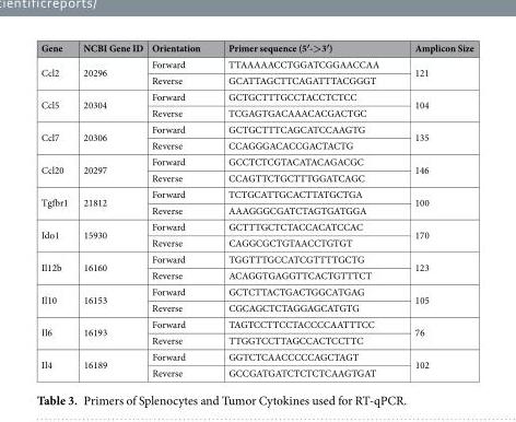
<table><thead><tr><td>Gene</td><td>NCBI Gene ID</td><td>Orientation</td><td>Primer sequence (5′-&gt;3′)</td><td>Amplicon Size</td></tr></thead><tbody><tr><td rowspan="2">Ccl2</td><td rowspan="2">20296</td><td>Forward</td><td>TTAAAAACCTGGATCGGAACCAA</td><td rowspan="2">121</td></tr><tr><td>Reverse</td><td>GCATTAGCTTCAGATTTACGGGT</td></tr><tr><td rowspan="2">Ccl5</td><td rowspan="2">20304</td><td>Forward</td><td>GCTGCTTTGCCTACCTCTCC</td><td rowspan="2">104</td></tr><tr><td>Reverse</td><td>TCGAGTGACAAACACGACTGC</td></tr><tr><td rowspan="2">Ccl7</td><td rowspan="2">20306</td><td>Forward</td><td>GCTGCTTTCAGCATCCAAGTG</td><td rowspan="2">135</td></tr><tr><td>Reverse</td><td>CCAGGGACACCGACTACTG</td></tr><tr><td rowspan="2">Ccl20</td><td rowspan="2">20297</td><td>Forward</td><td>GCCTCTCGTACATACAGACGC</td><td rowspan="2">146</td></tr><tr><td>Reverse</td><td>CCAGTTCTGCTTTGGATCAGC</td></tr><tr><td rowspan="2">Tgfbr1</td><td rowspan="2">21812</td><td>Forward</td><td>TCTGCATTGCACTTATGCTGA</td><td rowspan="2">100</td></tr><tr><td>Reverse</td><td>AAAGGGCGATCTAGTGATGGA</td></tr><tr><td rowspan="2">Ido1</td><td rowspan="2">15930</td><td>Forward</td><td>GCTTTGCTCTACCACATCCAC</td><td rowspan="2">170</td></tr><tr><td>Reverse</td><td>CAGGCGCTGTAACCTGTGT</td></tr><tr><td rowspan="2">Il12b</td><td rowspan="2">16160</td><td>Forward</td><td>TGGTTTGCCATCGTTTTGCTG</td><td rowspan="2">123</td></tr><tr><td>Reverse</td><td>ACAGGTGAGGTTCACTGTTTCT</td></tr><tr><td rowspan="2">Il10</td><td rowspan="2">16153</td><td>Forward</td><td>GCTCTTACTGACTGGCATGAG</td><td rowspan="2">105</td></tr><tr><td>Reverse</td><td>CGCAGCTCTAGGAGCATGTG</td></tr><tr><td rowspan="2">Il6</td><td rowspan="2">16193</td><td>Forward</td><td>TAGTCCTTCCTACCCCAATTTCC</td><td rowspan="2">76</td></tr><tr><td>Reverse</td><td>TTGGTCCTTAGCCACTCCTTC</td></tr><tr><td rowspan="2">Il4</td><td rowspan="2">16189</td><td>Forward</td><td>GGTCTCAACCCCCAGCTAGT</td><td rowspan="2">102</td></tr><tr><td>Reverse</td><td>GCCGATGATCTCTCTCAAGTGAT</td></tr></tbody></table>